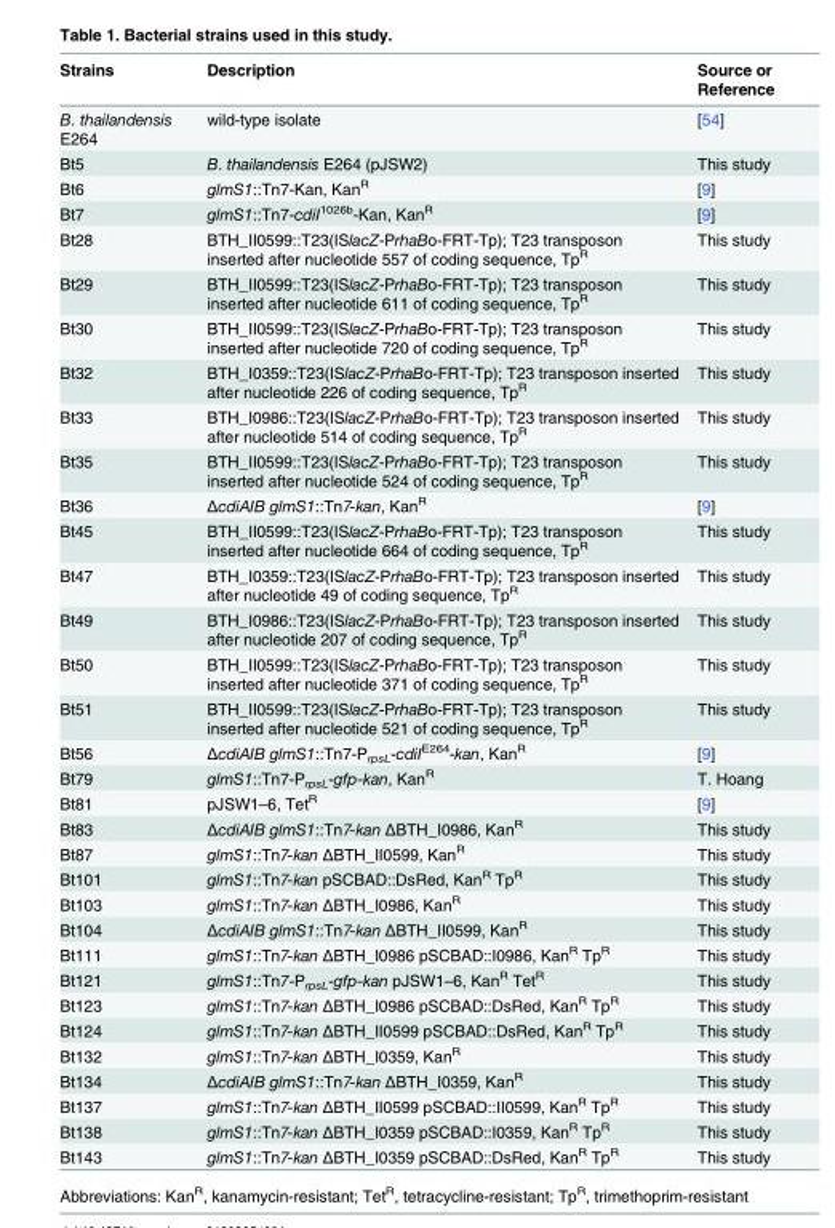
<table><thead><tr><td>Strains</td><td>Description</td><td>Source or Reference</td></tr></thead><tbody><tr><td>B. thailandensis E264</td><td>wild-type isolate</td><td>[54]</td></tr><tr><td>Bt5</td><td>B. thailandensis E264 (pJSW2)</td><td>This study</td></tr><tr><td>Bt6</td><td>glmS1::Tn7-Kan, Kan<sup>R</sup></td><td>[9]</td></tr><tr><td>Bt7</td><td>glmS1::Tn7-cdiI<sup>1026b</sup>-Kan, Kan<sup>R</sup></td><td>[9]</td></tr><tr><td>Bt28</td><td>BTH_II0599::T23(ISlacZ-PrhaBo-FRT-Tp); T23 transposon inserted after nucleotide 557 of coding sequence, Tp<sup>R</sup></td><td>This study</td></tr><tr><td>Bt29</td><td>BTH_II0599::T23(ISlacZ-PrhaBo-FRT-Tp); T23 transposon inserted after nucleotide 611 of coding sequence, Tp<sup>R</sup></td><td>This study</td></tr><tr><td>Bt30</td><td>BTH_II0599::T23(ISlacZ-PrhaBo-FRT-Tp); T23 transposon inserted after nucleotide 720 of coding sequence, Tp<sup>R</sup></td><td>This study</td></tr><tr><td>Bt32</td><td>BTH_I0359::T23(ISlacZ-PrhaBo-FRT-Tp); T23 transposon inserted after nucleotide 226 of coding sequence, Tp<sup>R</sup></td><td>This study</td></tr><tr><td>Bt33</td><td>BTH_I0986::T23(ISlacZ-PrhaBo-FRT-Tp); T23 transposon inserted after nucleotide 514 of coding sequence, Tp<sup>R</sup></td><td>This study</td></tr><tr><td>Bt35</td><td>BTH_II0599::T23(ISlacZ-PrhaBo-FRT-Tp); T23 transposon inserted after nucleotide 524 of coding sequence, Tp<sup>R</sup></td><td>This study</td></tr><tr><td>Bt36</td><td>ΔcdiAIB glmS1::Tn7-kan, Kan<sup>R</sup></td><td>[9]</td></tr><tr><td>Bt45</td><td>BTH_II0599::T23(ISlacZ-PrhaBo-FRT-Tp); T23 transposon inserted after nucleotide 664 of coding sequence, Tp<sup>R</sup></td><td>This study</td></tr><tr><td>Bt47</td><td>BTH_I0359::T23(ISlacZ-PrhaBo-FRT-Tp); T23 transposon inserted after nucleotide 49 of coding sequence, Tp<sup>R</sup></td><td>This study</td></tr><tr><td>Bt49</td><td>BTH_I0986::T23(ISlacZ-PrhaBo-FRT-Tp); T23 transposon inserted after nucleotide 207 of coding sequence, Tp<sup>R</sup></td><td>This study</td></tr><tr><td>Bt50</td><td>BTH_II0599::T23(ISlacZ-PrhaBo-FRT-Tp); T23 transposon inserted after nucleotide 371 of coding sequence, Tp<sup>R</sup></td><td>This study</td></tr><tr><td>Bt51</td><td>BTH_II0599::T23(ISlacZ-PrhaBo-FRT-Tp); T23 transposon inserted after nucleotide 521 of coding sequence, Tp<sup>R</sup></td><td>This study</td></tr><tr><td>Bt56</td><td>ΔcdiAIB glmS1::Tn7-P<sub>rpsL</sub>-cdiI<sup>E264</sup>-kan, Kan<sup>R</sup></td><td>[9]</td></tr><tr><td>Bt79</td><td>glmS1::Tn7-P<sub>rpsL</sub>-gfp-kan, Kan<sup>R</sup></td><td>T. Hoang</td></tr><tr><td>Bt81</td><td>pJSW1–6, Tet<sup>R</sup></td><td>[9]</td></tr><tr><td>Bt83</td><td>ΔcdiAIB glmS1::Tn7-kan ΔBTH_I0986, Kan<sup>R</sup></td><td>This study</td></tr><tr><td>Bt87</td><td>glmS1::Tn7-kan ΔBTH_II0599, Kan<sup>R</sup></td><td>This study</td></tr><tr><td>Bt101</td><td>glmS1::Tn7-kan pSCBAD::DsRed, Kan<sup>R</sup> Tp<sup>R</sup></td><td>This study</td></tr><tr><td>Bt103</td><td>glmS1::Tn7-kan ΔBTH_I0986, Kan<sup>R</sup></td><td>This study</td></tr><tr><td>Bt104</td><td>ΔcdiAIB glmS1::Tn7-kan ΔBTH_II0599, Kan<sup>R</sup></td><td>This study</td></tr><tr><td>Bt111</td><td>glmS1::Tn7-kan ΔBTH_I0986 pSCBAD::I0986, Kan<sup>R</sup> Tp<sup>R</sup></td><td>This study</td></tr><tr><td>Bt121</td><td>glmS1::Tn7-P<sub>rpsL</sub>-gfp-kan pJSW1–6, Kan<sup>R</sup> Tet<sup>R</sup></td><td>This study</td></tr><tr><td>Bt123</td><td>glmS1::Tn7-kan ΔBTH_I0986 pSCBAD::DsRed, Kan<sup>R</sup> Tp<sup>R</sup></td><td>This study</td></tr><tr><td>Bt124</td><td>glmS1::Tn7-kan ΔBTH_II0599 pSCBAD::DsRed, Kan<sup>R</sup> Tp<sup>R</sup></td><td>This study</td></tr><tr><td>Bt132</td><td>glmS1::Tn7-kan ΔBTH_I0359, Kan<sup>R</sup></td><td>This study</td></tr><tr><td>Bt134</td><td>ΔcdiAIB glmS1::Tn7-kan ΔBTH_I0359, Kan<sup>R</sup></td><td>This study</td></tr><tr><td>Bt137</td><td>glmS1::Tn7-kan ΔBTH_II0599 pSCBAD::II0599, Kan<sup>R</sup> Tp<sup>R</sup></td><td>This study</td></tr><tr><td>Bt138</td><td>glmS1::Tn7-kan ΔBTH_I0359 pSCBAD::I0359, Kan<sup>R</sup> Tp<sup>R</sup></td><td>This study</td></tr><tr><td>Bt143</td><td>glmS1::Tn7-kan ΔBTH_I0359 pSCBAD::DsRed, Kan<sup>R</sup> Tp<sup>R</sup></td><td>This study</td></tr></tbody></table>